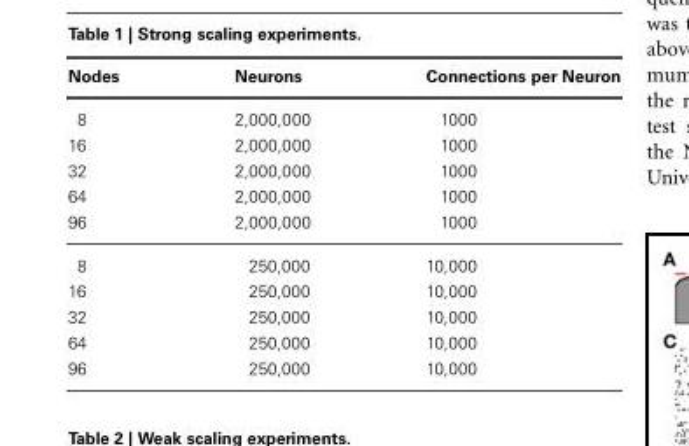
<table><thead><tr><td>Nodes</td><td>Neurons</td><td>Connections per Neuron</td></tr></thead><tbody><tr><td>8</td><td>2,000,000</td><td>1000</td></tr><tr><td>16</td><td>2,000,000</td><td>1000</td></tr><tr><td>32</td><td>2,000,000</td><td>1000</td></tr><tr><td>64</td><td>2,000,000</td><td>1000</td></tr><tr><td>96</td><td>2,000,000</td><td>1000</td></tr><tr><td>8</td><td>250,000</td><td>10,000</td></tr><tr><td>16</td><td>250,000</td><td>10,000</td></tr><tr><td>32</td><td>250,000</td><td>10,000</td></tr><tr><td>64</td><td>250,000</td><td>10,000</td></tr><tr><td>96</td><td>250,000</td><td>10,000</td></tr></tbody></table>